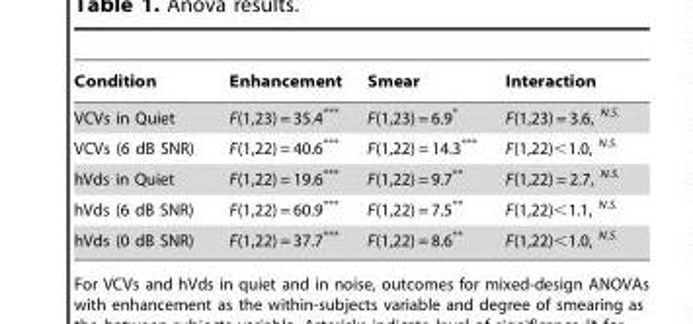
<table><thead><tr><td>Condition</td><td>Enhancement</td><td>Smear</td><td>Interaction</td></tr></thead><tbody><tr><td>VCVs in Quiet</td><td>F(1,23) = 35.4***</td><td>F(1,23) = 6.9*</td><td>F(1,23) = 3.6, <sup>N.S.</sup></td></tr><tr><td>VCVs (6 dB SNR)</td><td>F(1,22) = 40.6***</td><td>F(1,22) = 14.3***</td><td>F(1,22)&lt;1.0, <sup>N.S.</sup></td></tr><tr><td>hVds in Quiet</td><td>F(1,22) = 19.6***</td><td>F(1,22) = 9.7**</td><td>F(1,22) = 2.7, <sup>N.S.</sup></td></tr><tr><td>hVds (6 dB SNR)</td><td>F(1,22) = 60.9***</td><td>F(1,22) = 7.5**</td><td>F(1,22)&lt;1.1, <sup>N.S.</sup></td></tr><tr><td>hVds (0 dB SNR)</td><td>F(1,22) = 37.7***</td><td>F(1,22) = 8.6**</td><td>F(1,22)&lt;1.0, <sup>N.S.</sup></td></tr></tbody></table>